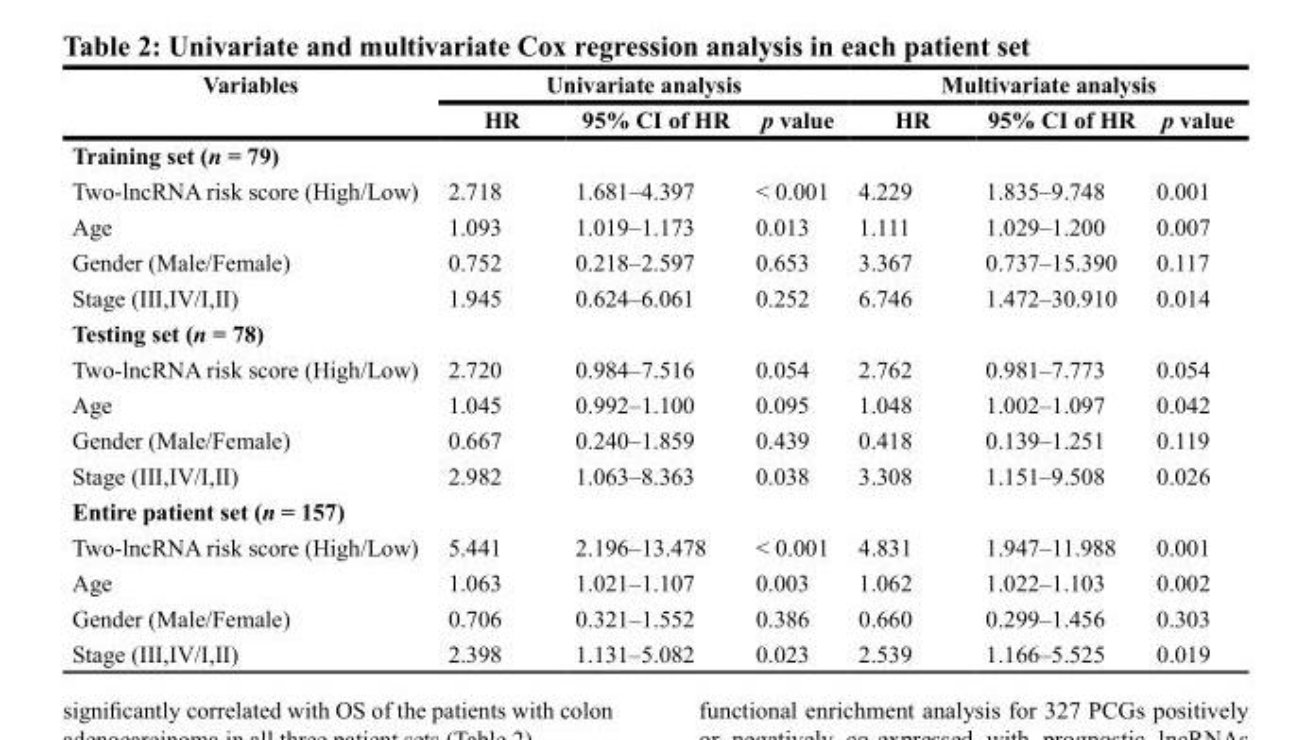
<table><thead><tr><td rowspan="2">Variables</td><td colspan="3">Univariate analysis</td><td colspan="3">Multivariate analysis</td></tr><tr><td>HR</td><td>95% CI of HR</td><td>p value</td><td>HR</td><td>95% CI of HR</td><td>p value</td></tr></thead><tbody><tr><td colspan="7">Training set (n = 79)</td></tr><tr><td>Two-lncRNA risk score (High/Low)</td><td>2.718</td><td>1.681–4.397</td><td>&lt; 0.001</td><td>4.229</td><td>1.835–9.748</td><td>0.001</td></tr><tr><td>Age</td><td>1.093</td><td>1.019–1.173</td><td>0.013</td><td>1.111</td><td>1.029–1.200</td><td>0.007</td></tr><tr><td>Gender (Male/Female)</td><td>0.752</td><td>0.218–2.597</td><td>0.653</td><td>3.367</td><td>0.737–15.390</td><td>0.117</td></tr><tr><td>Stage (III,IV/I,II)</td><td>1.945</td><td>0.624–6.061</td><td>0.252</td><td>6.746</td><td>1.472–30.910</td><td>0.014</td></tr><tr><td colspan="7">Testing set (n = 78)</td></tr><tr><td>Two-lncRNA risk score (High/Low)</td><td>2.720</td><td>0.984–7.516</td><td>0.054</td><td>2.762</td><td>0.981–7.773</td><td>0.054</td></tr><tr><td>Age</td><td>1.045</td><td>0.992–1.100</td><td>0.095</td><td>1.048</td><td>1.002–1.097</td><td>0.042</td></tr><tr><td>Gender (Male/Female)</td><td>0.667</td><td>0.240–1.859</td><td>0.439</td><td>0.418</td><td>0.139–1.251</td><td>0.119</td></tr><tr><td>Stage (III,IV/I,II)</td><td>2.982</td><td>1.063–8.363</td><td>0.038</td><td>3.308</td><td>1.151–9.508</td><td>0.026</td></tr><tr><td colspan="7">Entire patient set (n = 157)</td></tr><tr><td>Two-lncRNA risk score (High/Low)</td><td>5.441</td><td>2.196–13.478</td><td>&lt; 0.001</td><td>4.831</td><td>1.947–11.988</td><td>0.001</td></tr><tr><td>Age</td><td>1.063</td><td>1.021–1.107</td><td>0.003</td><td>1.062</td><td>1.022–1.103</td><td>0.002</td></tr><tr><td>Gender (Male/Female)</td><td>0.706</td><td>0.321–1.552</td><td>0.386</td><td>0.660</td><td>0.299–1.456</td><td>0.303</td></tr><tr><td>Stage (III,IV/I,II)</td><td>2.398</td><td>1.131–5.082</td><td>0.023</td><td>2.539</td><td>1.166–5.525</td><td>0.019</td></tr></tbody></table>